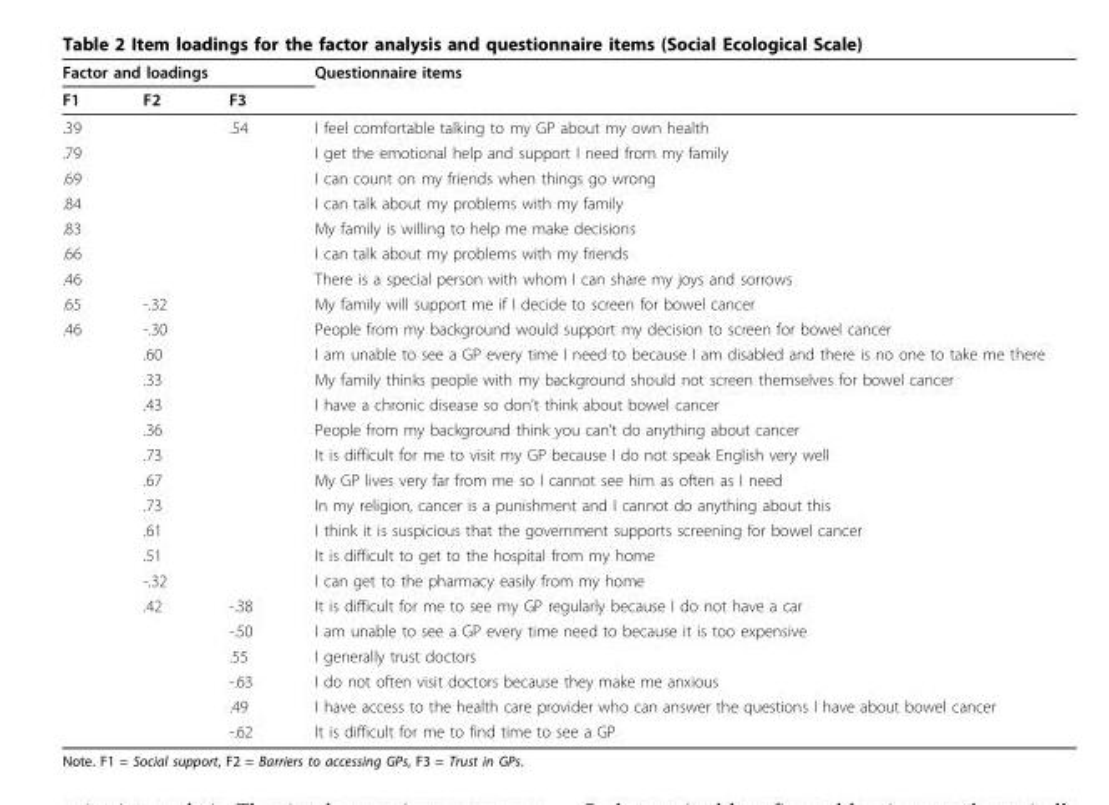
<table><thead><tr><td colspan="3">Factor and loadings</td><td rowspan="2">Questionnaire items</td></tr><tr><td>F1</td><td>F2</td><td>F3</td></tr></thead><tbody><tr><td>.39</td><td></td><td>.54</td><td>I feel comfortable talking to my GP about my own health</td></tr><tr><td>.79</td><td></td><td></td><td>I get the emotional help and support I need from my family</td></tr><tr><td>.69</td><td></td><td></td><td>I can count on my friends when things go wrong</td></tr><tr><td>.84</td><td></td><td></td><td>I can talk about my problems with my family</td></tr><tr><td>.83</td><td></td><td></td><td>My family is willing to help me make decisions</td></tr><tr><td>.66</td><td></td><td></td><td>I can talk about my problems with my friends</td></tr><tr><td>.46</td><td></td><td></td><td>There is a special person with whom I can share my joys and sorrows</td></tr><tr><td>.65</td><td>-.32</td><td></td><td>My family will support me if I decide to screen for bowel cancer</td></tr><tr><td rowspan="17">.46</td><td>-.30</td><td></td><td>People from my background would support my decision to screen for bowel cancer</td></tr><tr><td>.60</td><td></td><td>I am unable to see a GP every time I need to because I am disabled and there is no one to take me there</td></tr><tr><td>.33</td><td></td><td>My family thinks people with my background should not screen themselves for bowel cancer</td></tr><tr><td>.43</td><td></td><td>I have a chronic disease so don’t think about bowel cancer</td></tr><tr><td>.36</td><td></td><td>People from my background think you can’t do anything about cancer</td></tr><tr><td>.73</td><td></td><td>It is difficult for me to visit my GP because I do not speak English very well</td></tr><tr><td>.67</td><td></td><td>My GP lives very far from me so I cannot see him as often as I need</td></tr><tr><td>.73</td><td></td><td>In my religion, cancer is a punishment and I cannot do anything about this</td></tr><tr><td>.61</td><td></td><td>I think it is suspicious that the government supports screening for bowel cancer</td></tr><tr><td>.51</td><td></td><td>It is difficult to get to the hospital from my home</td></tr><tr><td>-.32</td><td></td><td>I can get to the pharmacy easily from my home</td></tr><tr><td>.42</td><td>-.38</td><td>It is difficult for me to see my GP regularly because I do not have a car</td></tr><tr><td></td><td>-.50</td><td>I am unable to see a GP every time need to because it is too expensive</td></tr><tr><td></td><td>.55</td><td>I generally trust doctors</td></tr><tr><td></td><td>-.63</td><td>I do not often visit doctors because they make me anxious</td></tr><tr><td></td><td>.49</td><td>I have access to the health care provider who can answer the questions I have about bowel cancer</td></tr><tr><td></td><td>-.62</td><td>It is difficult for me to find time to see a GP</td></tr></tbody></table>